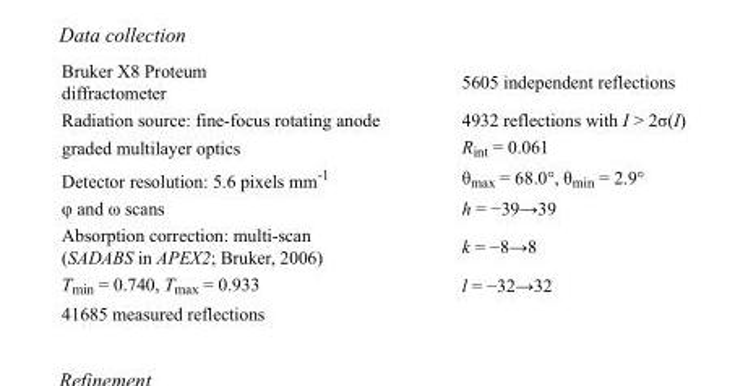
<table><tbody><tr><td>Bruker X8 Proteum diffractometer</td><td>5605 independent reflections</td></tr><tr><td>Radiation source: fine-focus rotating anode</td><td>4932 reflections with I &gt; 2σ(I)</td></tr><tr><td>graded multilayer optics</td><td>R<sub>int</sub> = 0.061</td></tr><tr><td>Detector resolution: 5.6 pixels mm<sup>-1</sup></td><td>θ<sub>max</sub> = 68.0°, θ<sub>min</sub> = 2.9°</td></tr><tr><td>φ and ω scans</td><td>h = −39→39</td></tr><tr><td>Absorption correction: multi-scan (SADABS in APEX2; Bruker, 2006)</td><td>k = −8→8</td></tr><tr><td>T<sub>min</sub> = 0.740, T<sub>max</sub> = 0.933</td><td>l = −32→32</td></tr><tr><td>41685 measured reflections</td><td></td></tr></tbody></table>